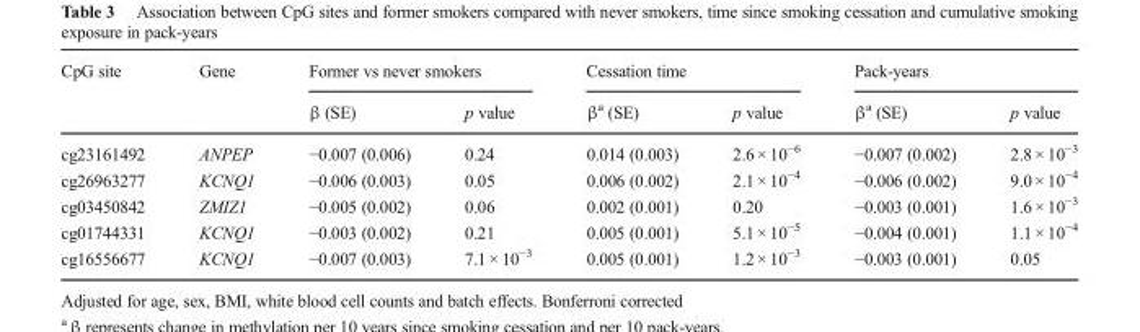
<table><thead><tr><td rowspan="2">CpG site</td><td rowspan="2">Gene</td><td colspan="2">Former vs never smokers</td><td colspan="2">Cessation time</td><td colspan="2">Pack-years</td></tr><tr><td>β (SE)</td><td>p value</td><td>β<sup>a</sup> (SE)</td><td>p value</td><td>β<sup>a</sup> (SE)</td><td>p value</td></tr></thead><tbody><tr><td>cg23161492</td><td>ANPEP</td><td>−0.007 (0.006)</td><td>0.24</td><td>0.014 (0.003)</td><td>2.6 × 10<sup>−6</sup></td><td>−0.007 (0.002)</td><td>2.8 × 10<sup>−3</sup></td></tr><tr><td>cg26963277</td><td>KCNQ1</td><td>−0.006 (0.003)</td><td>0.05</td><td>0.006 (0.002)</td><td>2.1 × 10<sup>−4</sup></td><td>−0.006 (0.002)</td><td>9.0 × 10<sup>−4</sup></td></tr><tr><td>cg03450842</td><td>ZMIZ1</td><td>−0.005 (0.002)</td><td>0.06</td><td>0.002 (0.001)</td><td>0.20</td><td>−0.003 (0.001)</td><td>1.6 × 10<sup>−3</sup></td></tr><tr><td>cg01744331</td><td>KCNQ1</td><td>−0.003 (0.002)</td><td>0.21</td><td>0.005 (0.001)</td><td>5.1 × 10<sup>−5</sup></td><td>−0.004 (0.001)</td><td>1.1 × 10<sup>−4</sup></td></tr><tr><td>cg16556677</td><td>KCNQ1</td><td>−0.007 (0.003)</td><td>7.1 × 10<sup>−3</sup></td><td>0.005 (0.001)</td><td>1.2 × 10<sup>−3</sup></td><td>−0.003 (0.001)</td><td>0.05</td></tr></tbody></table>